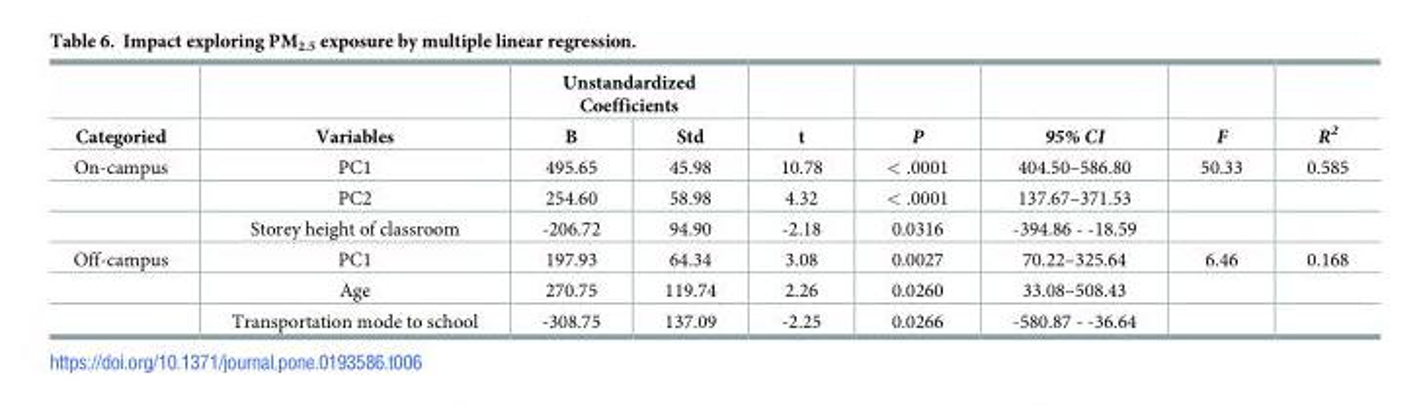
<table><thead><tr><td rowspan="2">Categoried</td><td rowspan="2">Variables</td><td colspan="2">Unstandardized Coefficients</td><td rowspan="2">t</td><td rowspan="2">P</td><td rowspan="2">95% CI</td><td rowspan="2">F</td><td rowspan="2">R<sup>2</sup></td></tr><tr><td>B</td><td>Std</td></tr></thead><tbody><tr><td rowspan="3">On-campus</td><td>PC1</td><td>495.65</td><td>45.98</td><td>10.78</td><td>&lt; .0001</td><td>404.50–586.80</td><td>50.33</td><td>0.585</td></tr><tr><td>PC2</td><td>254.60</td><td>58.98</td><td>4.32</td><td>&lt; .0001</td><td>137.67–371.53</td><td></td><td></td></tr><tr><td>Storey height of classroom</td><td>-206.72</td><td>94.90</td><td>-2.18</td><td>0.0316</td><td>-394.86 - -18.59</td><td></td><td></td></tr><tr><td rowspan="3">Off-campus</td><td>PC1</td><td>197.93</td><td>64.34</td><td>3.08</td><td>0.0027</td><td>70.22–325.64</td><td>6.46</td><td>0.168</td></tr><tr><td>Age</td><td>270.75</td><td>119.74</td><td>2.26</td><td>0.0260</td><td>33.08–508.43</td><td></td><td></td></tr><tr><td>Transportation mode to school</td><td>-308.75</td><td>137.09</td><td>-2.25</td><td>0.0266</td><td>-580.87 - -36.64</td><td></td><td></td></tr></tbody></table>